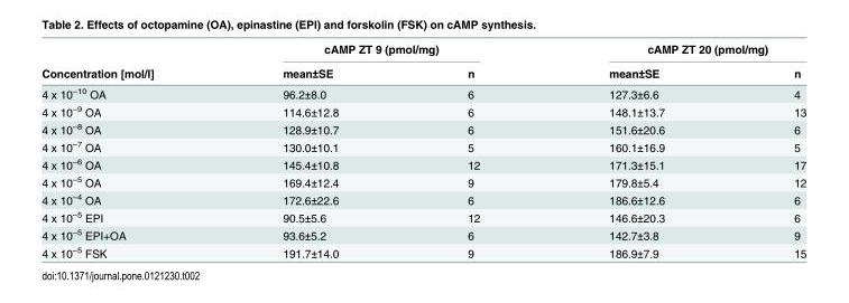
<table><thead><tr><td rowspan="2">Concentration [mol/l]</td><td colspan="2">cAMP ZT 9 (pmol/mg)</td><td colspan="2">cAMP ZT 20 (pmol/mg)</td></tr><tr><td>mean±SE</td><td>n</td><td>mean±SE</td><td>n</td></tr></thead><tbody><tr><td>4 x 10<sup>–10</sup> OA</td><td>96.2±8.0</td><td>6</td><td>127.3±6.6</td><td>4</td></tr><tr><td>4 x 10<sup>–9</sup> OA</td><td>114.6±12.8</td><td>6</td><td>148.1±13.7</td><td>13</td></tr><tr><td>4 x 10<sup>–8</sup> OA</td><td>128.9±10.7</td><td>6</td><td>151.6±20.6</td><td>6</td></tr><tr><td>4 x 10<sup>–7</sup> OA</td><td>130.0±10.1</td><td>5</td><td>160.1±16.9</td><td>5</td></tr><tr><td>4 x 10<sup>–6</sup> OA</td><td>145.4±10.8</td><td>12</td><td>171.3±15.1</td><td>17</td></tr><tr><td>4 x 10<sup>–5</sup> OA</td><td>169.4±12.4</td><td>9</td><td>179.8±5.4</td><td>12</td></tr><tr><td>4 x 10<sup>–4</sup> OA</td><td>172.6±22.6</td><td>6</td><td>186.6±12.6</td><td>6</td></tr><tr><td>4 x 10<sup>–5</sup> EPI</td><td>90.5±5.6</td><td>12</td><td>146.6±20.3</td><td>6</td></tr><tr><td>4 x 10<sup>–5</sup> EPI+OA</td><td>93.6±5.2</td><td>6</td><td>142.7±3.8</td><td>9</td></tr><tr><td>4 x 10<sup>–5</sup> FSK</td><td>191.7±14.0</td><td>9</td><td>186.9±7.9</td><td>15</td></tr></tbody></table>